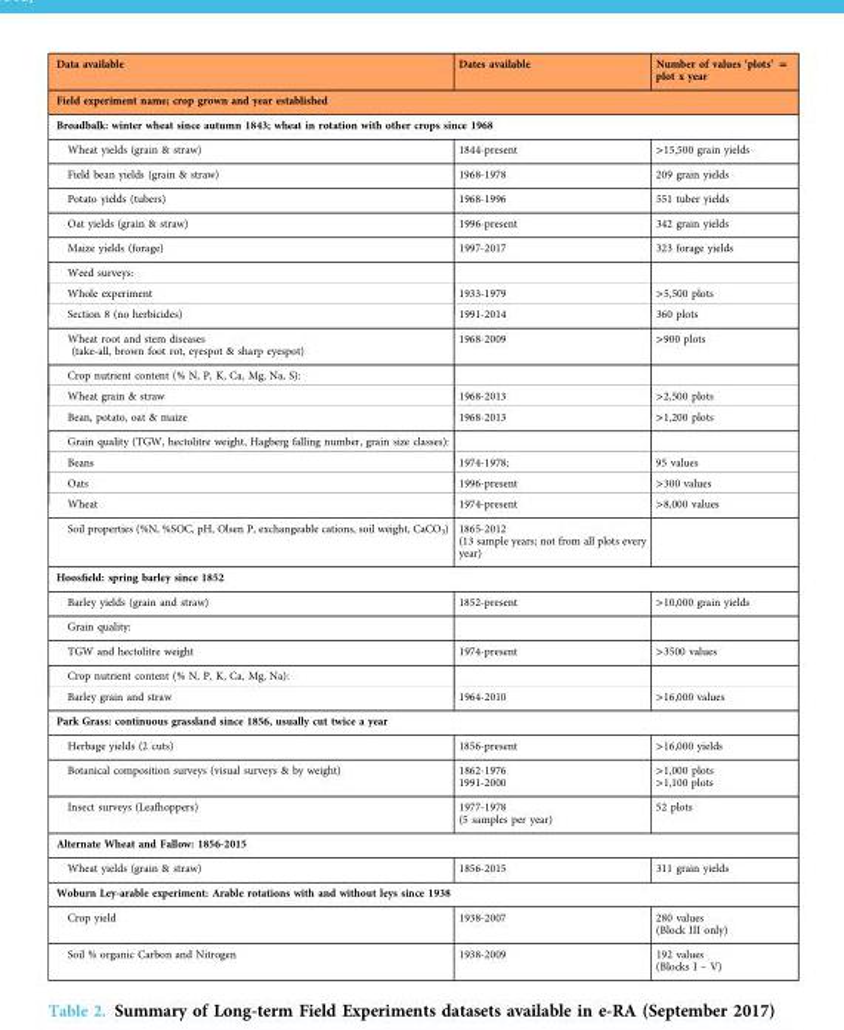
<table><thead><tr><td>Data available</td><td>Dates available</td><td>Number of values ‘plots’ = plot x year</td></tr><tr><td colspan="3">Field experiment name; crop grown and year established</td></tr></thead><tbody><tr><td colspan="3">Broadbalk: winter wheat since autumn 1843; wheat in rotation with other crops since 1968</td></tr><tr><td>Wheat yields (grain &amp; straw)</td><td>1844-present</td><td>&gt;15,500 grain yields</td></tr><tr><td>Field bean yields (grain &amp; straw)</td><td>1968-1978</td><td>209 grain yields</td></tr><tr><td>Potato yields (tubers)</td><td>1968-1996</td><td>551 tuber yields</td></tr><tr><td>Oat yields (grain &amp; straw)</td><td>1996-present</td><td>342 grain yields</td></tr><tr><td>Maize yields (forage)</td><td>1997-2017</td><td>323 forage yields</td></tr><tr><td colspan="3">Weed surveys:</td></tr><tr><td>Whole experiment</td><td>1933-1979</td><td>&gt;5,500 plots</td></tr><tr><td>Section 8 (no herbicides)</td><td>1991-2014</td><td>360 plots</td></tr><tr><td>Wheat root and stem diseases (take-all, brown foot rot, eyespot &amp; sharp eyespot)</td><td>1968-2009</td><td>&gt;900 plots</td></tr><tr><td colspan="3">Crop nutrient content (% N, P, K, Ca, Mg, Na, S):</td></tr><tr><td>Wheat grain &amp; straw</td><td>1968-2013</td><td>&gt;2,500 plots</td></tr><tr><td>Bean, potato, oat &amp; maize</td><td>1968-2013</td><td>&gt;1,200 plots</td></tr><tr><td colspan="3">Grain quality (TGW, hectolitre weight, Hagberg falling number, grain size classes):</td></tr><tr><td>Beans</td><td>1974-1978;</td><td>95 values</td></tr><tr><td>Oats</td><td>1996-present</td><td>&gt;300 values</td></tr><tr><td>Wheat</td><td>1974-present</td><td>&gt;8,000 values</td></tr><tr><td>Soil properties (%N, %SOC, pH, Olsen P, exchangeable cations, soil weight, CaCO<sub>3</sub>)</td><td>1865-2012 (13 sample years; not from all plots every year)</td><td></td></tr><tr><td colspan="3">Hoosfield: spring barley since 1852</td></tr><tr><td>Barley yields (grain and straw)</td><td>1852-present</td><td>&gt;10,000 grain yields</td></tr><tr><td colspan="3">Grain quality:</td></tr><tr><td>TGW and hectolitre weight</td><td>1974-present</td><td>&gt;3500 values</td></tr><tr><td colspan="3">Crop nutrient content (% N, P, K, Ca, Mg, Na):</td></tr><tr><td>Barley grain and straw</td><td>1964-2010</td><td>&gt;16,000 values</td></tr><tr><td colspan="3">Park Grass: continuous grassland since 1856, usually cut twice a year</td></tr><tr><td>Herbage yields (2 cuts)</td><td>1856-present</td><td>&gt;16,000 yields</td></tr><tr><td>Botanical composition surveys (visual surveys &amp; by weight)</td><td>1862-1976 1991-2000</td><td>&gt;1,000 plots &gt;1,100 plots</td></tr><tr><td>Insect surveys (Leafhoppers)</td><td>1977-1978 (5 samples per year)</td><td>52 plots</td></tr><tr><td colspan="3">Alternate Wheat and Fallow: 1856-2015</td></tr><tr><td>Wheat yields (grain &amp; straw)</td><td>1856-2015</td><td>311 grain yields</td></tr><tr><td colspan="3">Woburn Ley-arable experiment: Arable rotations with and without leys since 1938</td></tr><tr><td>Crop yield</td><td>1938-2007</td><td>280 values (Block III only)</td></tr><tr><td>Soil % organic Carbon and Nitrogen</td><td>1938-2009</td><td>192 values (Blocks I – V)</td></tr></tbody></table>